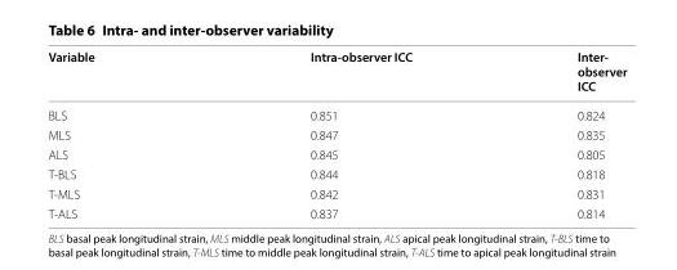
<table><thead><tr><td>Variable</td><td>Intra‑observer ICC</td><td>Inter‑ observer ICC</td></tr></thead><tbody><tr><td>BLS</td><td>0.851</td><td>0.824</td></tr><tr><td>MLS</td><td>0.847</td><td>0.835</td></tr><tr><td>ALS</td><td>0.845</td><td>0.805</td></tr><tr><td>T-BLS</td><td>0.844</td><td>0.818</td></tr><tr><td>T-MLS</td><td>0.842</td><td>0.831</td></tr><tr><td>T-ALS</td><td>0.837</td><td>0.814</td></tr></tbody></table>